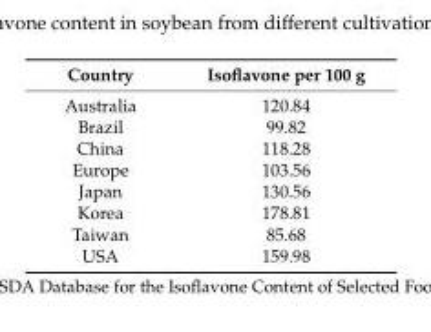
<table><thead><tr><td>Country</td><td>Isoflavone per 100 g</td></tr></thead><tbody><tr><td>Australia</td><td>120.84</td></tr><tr><td>Brazil</td><td>99.82</td></tr><tr><td>China</td><td>118.28</td></tr><tr><td>Europe</td><td>103.56</td></tr><tr><td>Japan</td><td>130.56</td></tr><tr><td>Korea</td><td>178.81</td></tr><tr><td>Taiwan</td><td>85.68</td></tr><tr><td>USA</td><td>159.98</td></tr></tbody></table>